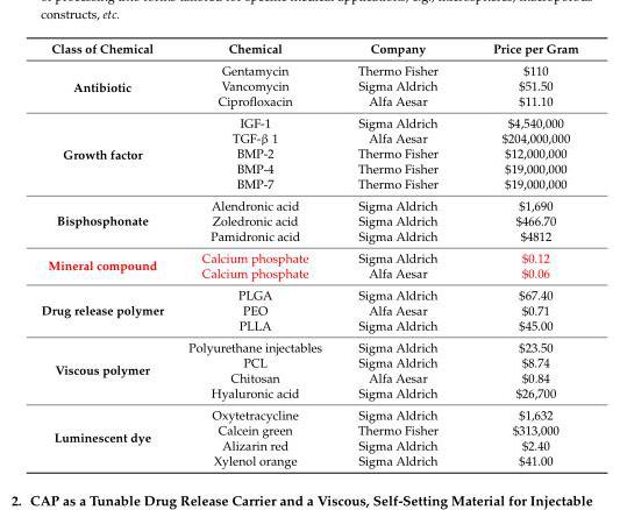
<table><thead><tr><td>Class of Chemical</td><td>Chemical</td><td>Company</td><td>Price per Gram</td></tr></thead><tbody><tr><td rowspan="3">Antibiotic</td><td>Gentamycin</td><td>Thermo Fisher</td><td>$110</td></tr><tr><td>Vancomycin</td><td>Sigma Aldrich</td><td>$51.50</td></tr><tr><td>Ciprofloxacin</td><td>Alfa Aesar</td><td>$11.10</td></tr><tr><td rowspan="5">Growth factor</td><td>IGF-1</td><td>Sigma Aldrich</td><td>$4,540,000</td></tr><tr><td>TGF-β 1</td><td>Alfa Aesar</td><td>$204,000,000</td></tr><tr><td>BMP-2</td><td>Thermo Fisher</td><td>$12,000,000</td></tr><tr><td>BMP-4</td><td>Thermo Fisher</td><td>$19,000,000</td></tr><tr><td>BMP-7</td><td>Thermo Fisher</td><td>$19,000,000</td></tr><tr><td rowspan="3">Bisphosphonate</td><td>Alendronic acid</td><td>Sigma Aldrich</td><td>$1,690</td></tr><tr><td>Zoledronic acid</td><td>Sigma Aldrich</td><td>$466.70</td></tr><tr><td>Pamidronic acid</td><td>Sigma Aldrich</td><td>$4812</td></tr><tr><td rowspan="2">Mineral compound</td><td>Calcium phosphate</td><td>Sigma Aldrich</td><td>$0.12</td></tr><tr><td>Calcium phosphate</td><td>Alfa Aesar</td><td>$0.06</td></tr><tr><td rowspan="3">Drug release polymer</td><td>PLGA</td><td>Sigma Aldrich</td><td>$67.40</td></tr><tr><td>PEO</td><td>Alfa Aesar</td><td>$0.71</td></tr><tr><td>PLLA</td><td>Sigma Aldrich</td><td>$45.00</td></tr><tr><td rowspan="4">Viscous polymer</td><td>Polyurethane injectables</td><td>Sigma Aldrich</td><td>$23.50</td></tr><tr><td>PCL</td><td>Sigma Aldrich</td><td>$8.74</td></tr><tr><td>Chitosan</td><td>Alfa Aesar</td><td>$0.84</td></tr><tr><td>Hyaluronic acid</td><td>Sigma Aldrich</td><td>$26,700</td></tr><tr><td rowspan="4">Luminescent dye</td><td>Oxytetracycline</td><td>Sigma Aldrich</td><td>$1,632</td></tr><tr><td>Calcein green</td><td>Thermo Fisher</td><td>$313,000</td></tr><tr><td>Alizarin red</td><td>Sigma Aldrich</td><td>$2.40</td></tr><tr><td>Xylenol orange</td><td>Sigma Aldrich</td><td>$41.00</td></tr></tbody></table>